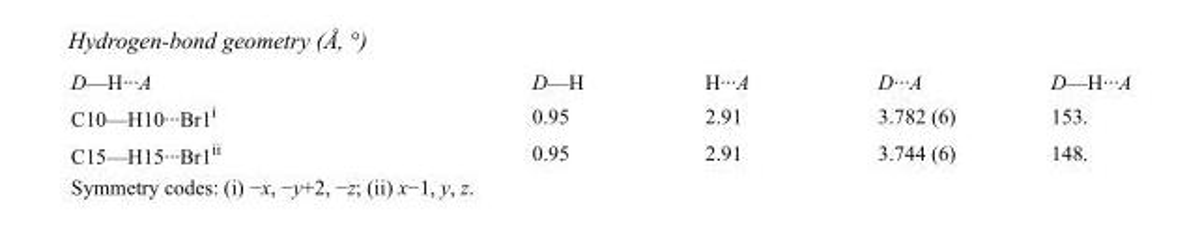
<table><tbody><tr><td>D—H···A</td><td>D—H</td><td>H···A</td><td>D···A</td><td>D—H···A</td></tr><tr><td>C10—H10···Br1<sup>i</sup></td><td>0.95</td><td>2.91</td><td>3.782 (6)</td><td>153.</td></tr><tr><td>C15—H15···Br1<sup>ii</sup></td><td>0.95</td><td>2.91</td><td>3.744 (6)</td><td>148.</td></tr></tbody></table>